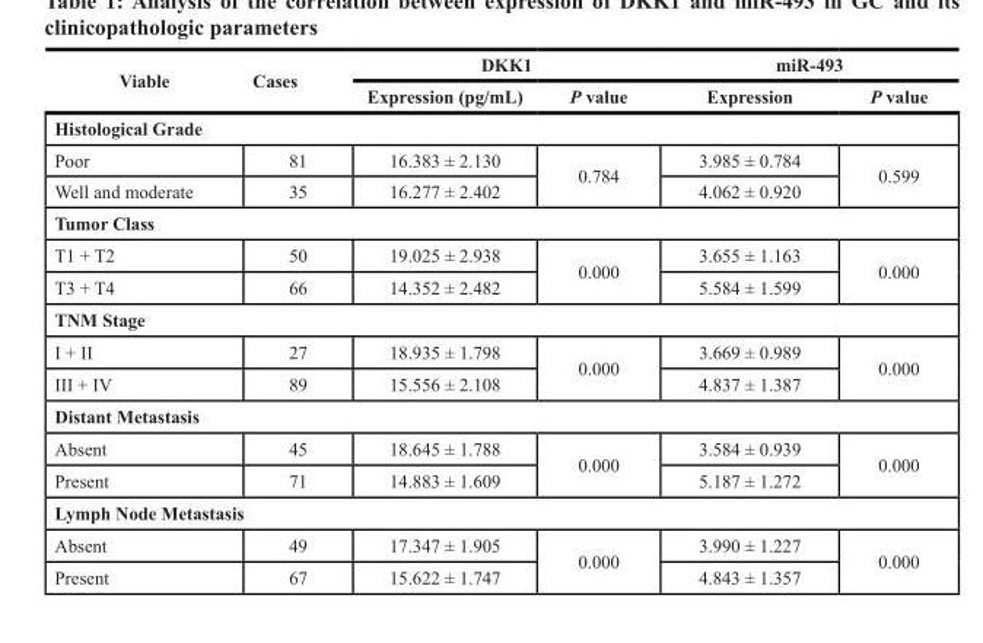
<table><thead><tr><td rowspan="2">Viable</td><td rowspan="2">Cases</td><td colspan="2">DKK1</td><td colspan="2">miR-493</td></tr><tr><td>Expression (pg/mL)</td><td>P value</td><td>Expression</td><td>P value</td></tr></thead><tbody><tr><td colspan="6">Histological Grade</td></tr><tr><td>Poor</td><td>81</td><td>16.383 ± 2.130</td><td rowspan="2">0.784</td><td>3.985 ± 0.784</td><td rowspan="2">0.599</td></tr><tr><td>Well and moderate</td><td>35</td><td>16.277 ± 2.402</td><td>4.062 ± 0.920</td></tr><tr><td colspan="6">Tumor Class</td></tr><tr><td>T1 + T2</td><td>50</td><td>19.025 ± 2.938</td><td rowspan="2">0.000</td><td>3.655 ± 1.163</td><td rowspan="2">0.000</td></tr><tr><td>T3 + T4</td><td>66</td><td>14.352 ± 2.482</td><td>5.584 ± 1.599</td></tr><tr><td colspan="6">TNM Stage</td></tr><tr><td>I + II</td><td>27</td><td>18.935 ± 1.798</td><td rowspan="2">0.000</td><td>3.669 ± 0.989</td><td rowspan="2">0.000</td></tr><tr><td>III + IV</td><td>89</td><td>15.556 ± 2.108</td><td>4.837 ± 1.387</td></tr><tr><td colspan="6">Distant Metastasis</td></tr><tr><td>Absent</td><td>45</td><td>18.645 ± 1.788</td><td rowspan="2">0.000</td><td>3.584 ± 0.939</td><td rowspan="2">0.000</td></tr><tr><td>Present</td><td>71</td><td>14.883 ± 1.609</td><td>5.187 ± 1.272</td></tr><tr><td colspan="6">Lymph Node Metastasis</td></tr><tr><td>Absent</td><td>49</td><td>17.347 ± 1.905</td><td rowspan="2">0.000</td><td>3.990 ± 1.227</td><td rowspan="2">0.000</td></tr><tr><td>Present</td><td>67</td><td>15.622 ± 1.747</td><td>4.843 ± 1.357</td></tr></tbody></table>